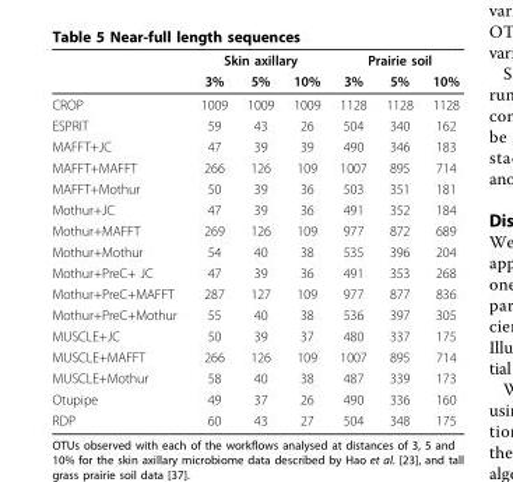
<table><thead><tr><td rowspan="2"></td><td colspan="3">Skin axillary</td><td colspan="3">Prairie soil</td></tr><tr><td>3%</td><td>5%</td><td>10%</td><td>3%</td><td>5%</td><td>10%</td></tr></thead><tbody><tr><td>CROP</td><td>1009</td><td>1009</td><td>1009</td><td>1128</td><td>1128</td><td>1128</td></tr><tr><td>ESPRIT</td><td>59</td><td>43</td><td>26</td><td>504</td><td>340</td><td>162</td></tr><tr><td>MAFFT+JC</td><td>47</td><td>39</td><td>39</td><td>490</td><td>346</td><td>183</td></tr><tr><td>MAFFT+MAFFT</td><td>266</td><td>126</td><td>109</td><td>1007</td><td>895</td><td>714</td></tr><tr><td>MAFFT+Mothur</td><td>50</td><td>39</td><td>36</td><td>503</td><td>351</td><td>181</td></tr><tr><td>Mothur+JC</td><td>47</td><td>39</td><td>36</td><td>491</td><td>352</td><td>184</td></tr><tr><td>Mothur+MAFFT</td><td>269</td><td>126</td><td>109</td><td>977</td><td>872</td><td>689</td></tr><tr><td>Mothur+Mothur</td><td>54</td><td>40</td><td>38</td><td>535</td><td>396</td><td>204</td></tr><tr><td>Mothur+PreC+ JC</td><td>47</td><td>39</td><td>36</td><td>491</td><td>353</td><td>268</td></tr><tr><td>Mothur+PreC+MAFFT</td><td>287</td><td>127</td><td>109</td><td>977</td><td>877</td><td>836</td></tr><tr><td>Mothur+PreC+Mothur</td><td>55</td><td>40</td><td>38</td><td>536</td><td>397</td><td>305</td></tr><tr><td>MUSCLE+JC</td><td>50</td><td>39</td><td>37</td><td>480</td><td>337</td><td>175</td></tr><tr><td>MUSCLE+MAFFT</td><td>266</td><td>126</td><td>109</td><td>1007</td><td>895</td><td>714</td></tr><tr><td>MUSCLE+Mothur</td><td>58</td><td>40</td><td>38</td><td>487</td><td>339</td><td>173</td></tr><tr><td>Otupipe</td><td>49</td><td>37</td><td>26</td><td>490</td><td>336</td><td>160</td></tr><tr><td>RDP</td><td>60</td><td>43</td><td>27</td><td>504</td><td>348</td><td>175</td></tr></tbody></table>